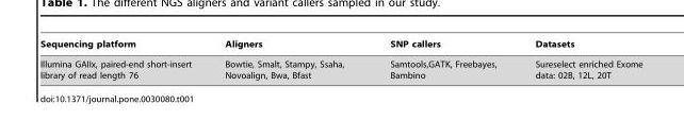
<table><thead><tr><td>Sequencing platform</td><td>Aligners</td><td>SNP callers</td><td>Datasets</td></tr></thead><tbody><tr><td>Illumina GAIIx, paired-end short-insert library of read length 76</td><td>Bowtie, Smalt, Stampy, Ssaha, Novoalign, Bwa, Bfast</td><td>Samtools,GATK, Freebayes, Bambino</td><td>Sureselect enriched Exome data: 02B, 12L, 20T</td></tr></tbody></table>